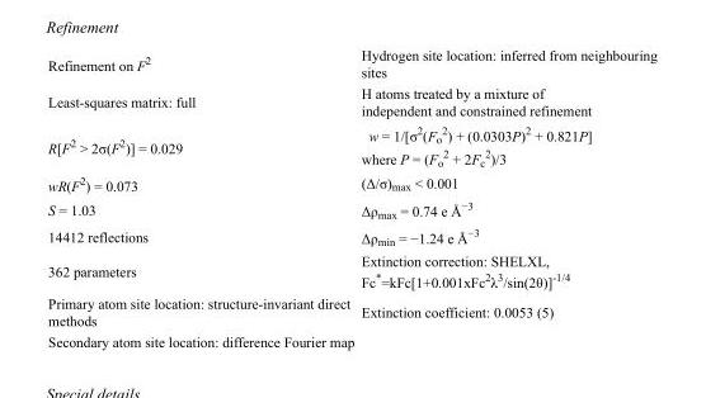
<table><tbody><tr><td>Refinement on F<sup>2</sup></td><td>Hydrogen site location: inferred from neighbouring sites</td></tr><tr><td>Least-squares matrix: full</td><td>H atoms treated by a mixture of independent and constrained refinement</td></tr><tr><td>R[F<sup>2</sup> &gt; 2σ(F<sup>2</sup>)] = 0.029</td><td>w = 1/[σ<sup>2</sup>(F<sub>o</sub> <sup>2</sup>) + (0.0303P)<sup>2</sup> + 0.821P] where P = (F<sub>o</sub> <sup>2</sup> + 2F<sub>c</sub> <sup>2</sup>)/3</td></tr><tr><td>wR(F<sup>2</sup>) = 0.073</td><td>(Δ/σ)<sub>max</sub> &lt; 0.001</td></tr><tr><td>S = 1.03</td><td>Δρ<sub>max</sub> = 0.74 e Å<sup>−3</sup></td></tr><tr><td>14412 reflections</td><td>Δρ<sub>min</sub> = −1.24 e Å<sup>−3</sup></td></tr><tr><td>362 parameters</td><td>Extinction correction: SHELXL, Fc*=kFc[1+0.001xFc<sup>2</sup>λ<sup>3</sup>/sin(2θ)]<sup>-1/4</sup></td></tr><tr><td>Primary atom site location: structure-invariant direct methods</td><td>Extinction coefficient: 0.0053 (5)</td></tr><tr><td>Secondary atom site location: difference Fourier map</td><td></td></tr></tbody></table>